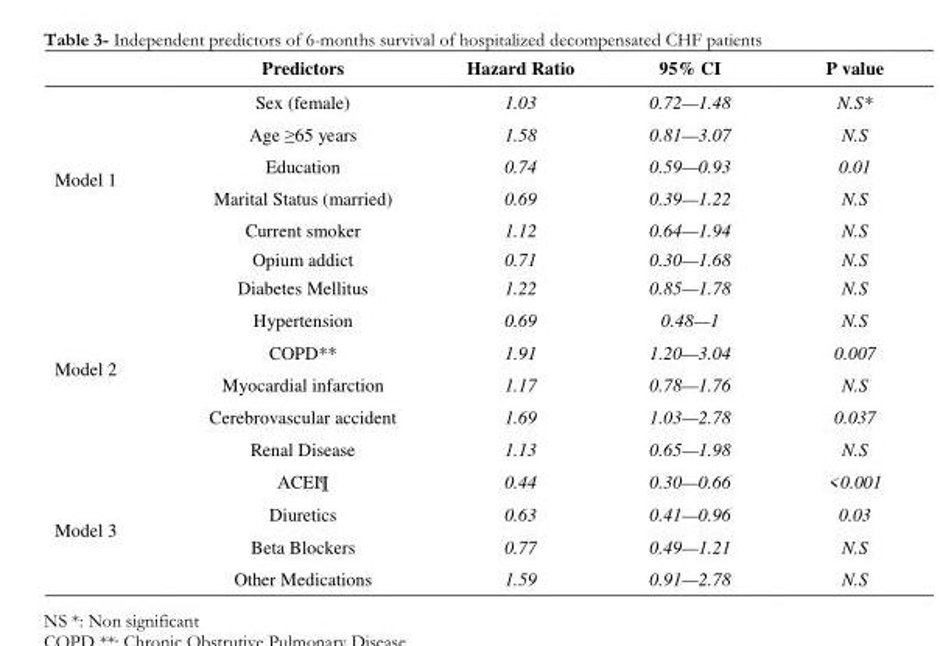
<table><thead><tr><td></td><td>Predictors</td><td>Hazard Ratio</td><td>95% CI</td><td>P value</td></tr></thead><tbody><tr><td rowspan="6">Model 1</td><td>Sex (female)</td><td>1.03</td><td>0.72—1.48</td><td>N.S*</td></tr><tr><td>Age ≥65 years</td><td>1.58</td><td>0.81—3.07</td><td>N.S</td></tr><tr><td>Education</td><td>0.74</td><td>0.59—0.93</td><td>0.01</td></tr><tr><td>Marital Status (married)</td><td>0.69</td><td>0.39—1.22</td><td>N.S</td></tr><tr><td>Current smoker</td><td>1.12</td><td>0.64—1.94</td><td>N.S</td></tr><tr><td>Opium addict</td><td>0.71</td><td>0.30—1.68</td><td>N.S</td></tr><tr><td rowspan="6">Model 2</td><td>Diabetes Mellitus</td><td>1.22</td><td>0.85—1.78</td><td>N.S</td></tr><tr><td>Hypertension</td><td>0.69</td><td>0.48—1</td><td>N.S</td></tr><tr><td>COPD**</td><td>1.91</td><td>1.20—3.04</td><td>0.007</td></tr><tr><td>Myocardial infarction</td><td>1.17</td><td>0.78—1.76</td><td>N.S</td></tr><tr><td>Cerebrovascular accident</td><td>1.69</td><td>1.03—2.78</td><td>0.037</td></tr><tr><td>Renal Disease</td><td>1.13</td><td>0.65—1.98</td><td>N.S</td></tr><tr><td rowspan="4">Model 3</td><td>ACEI¶</td><td>0.44</td><td>0.30—0.66</td><td>&lt;0.001</td></tr><tr><td>Diuretics</td><td>0.63</td><td>0.41—0.96</td><td>0.03</td></tr><tr><td>Beta Blockers</td><td>0.77</td><td>0.49—1.21</td><td>N.S</td></tr><tr><td>Other Medications</td><td>1.59</td><td>0.91—2.78</td><td>N.S</td></tr></tbody></table>